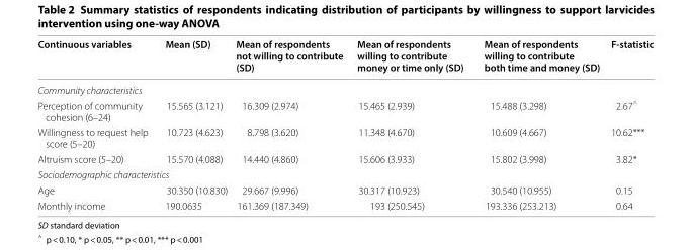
<table><thead><tr><td>Continuous variables</td><td>Mean (SD)</td><td>Mean of respondents not willing to contribute (SD)</td><td>Mean of respondents willing to contribute money or time only (SD)</td><td>Mean of respondents willing to contribute both time and money (SD)</td><td>F‑statistic</td></tr></thead><tbody><tr><td colspan="6">Community characteristics</td></tr><tr><td>Perception of community cohesion (6–24)</td><td>15.565 (3.121)</td><td>16.309 (2.974)</td><td>15.465 (2.939)</td><td>15.488 (3.298)</td><td>2.67<sup>^</sup></td></tr><tr><td>Willingness to request help score (5–20)</td><td>10.723 (4.623)</td><td>8.798 (3.620)</td><td>11.348 (4.670)</td><td>10.609 (4.667)</td><td>10.62***</td></tr><tr><td>Altruism score (5–20)</td><td>15.570 (4.088)</td><td>14.440 (4.860)</td><td>15.606 (3.933)</td><td>15.802 (3.998)</td><td>3.82*</td></tr><tr><td colspan="6">Sociodemographic characteristics</td></tr><tr><td>Age</td><td>30.350 (10.830)</td><td>29.667 (9.996)</td><td>30.317 (10.923)</td><td>30.540 (10.955)</td><td>0.15</td></tr><tr><td>Monthly income</td><td>190.0635</td><td>161.369 (187.349)</td><td>193 (250.545)</td><td>193.336 (253.213)</td><td>0.64</td></tr></tbody></table>